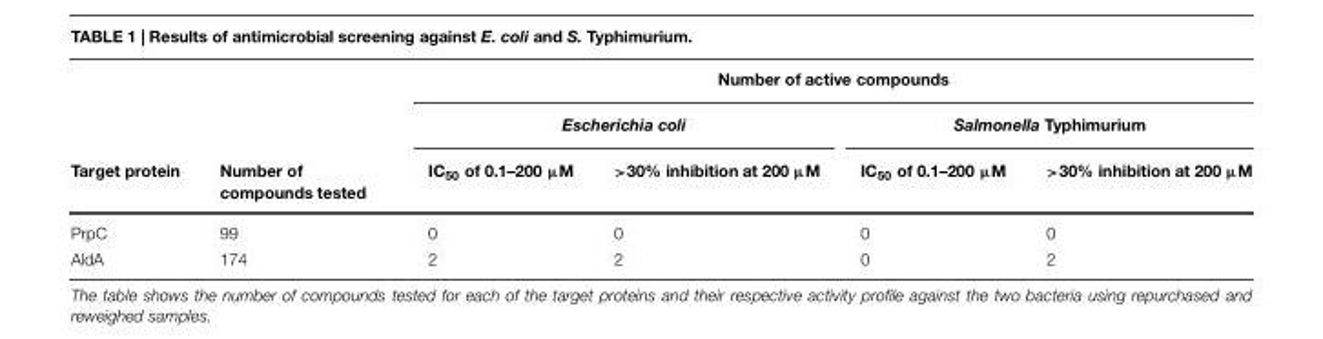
<table><thead><tr><td rowspan="3">Target protein</td><td rowspan="3">Number of compounds tested</td><td colspan="4">Number of active compounds</td></tr><tr><td colspan="2">Escherichia coli</td><td colspan="2">Salmonella Typhimurium</td></tr><tr><td>IC<sub>50</sub> of 0.1–200 µM</td><td>&gt;30% inhibition at 200 µM</td><td>IC<sub>50</sub> of 0.1–200 µM</td><td>&gt;30% inhibition at 200 µM</td></tr></thead><tbody><tr><td>PrpC</td><td>99</td><td>0</td><td>0</td><td>0</td><td>0</td></tr><tr><td>AldA</td><td>174</td><td>2</td><td>2</td><td>0</td><td>2</td></tr></tbody></table>